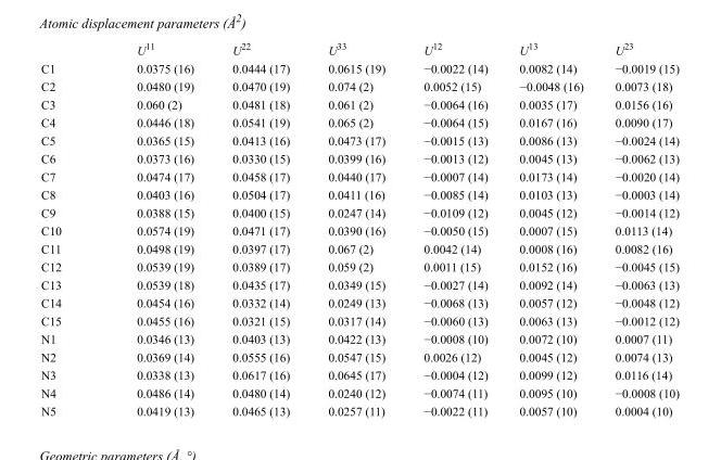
<table><thead><tr><td></td><td>U<sup>11</sup></td><td>U<sup>22</sup></td><td>U<sup>33</sup></td><td>U<sup>12</sup></td><td>U<sup>13</sup></td><td>U<sup>23</sup></td></tr></thead><tbody><tr><td>C1</td><td>0.0375 (16)</td><td>0.0444 (17)</td><td>0.0615 (19)</td><td>−0.0022 (14)</td><td>0.0082 (14)</td><td>−0.0019 (15)</td></tr><tr><td>C2</td><td>0.0480 (19)</td><td>0.0470 (19)</td><td>0.074 (2)</td><td>0.0052 (15)</td><td>−0.0048 (16)</td><td>0.0073 (18)</td></tr><tr><td>C3</td><td>0.060 (2)</td><td>0.0481 (18)</td><td>0.061 (2)</td><td>−0.0064 (16)</td><td>0.0035 (17)</td><td>0.0156 (16)</td></tr><tr><td>C4</td><td>0.0446 (18)</td><td>0.0541 (19)</td><td>0.065 (2)</td><td>−0.0064 (15)</td><td>0.0167 (16)</td><td>0.0090 (17)</td></tr><tr><td>C5</td><td>0.0365 (15)</td><td>0.0413 (16)</td><td>0.0473 (17)</td><td>−0.0015 (13)</td><td>0.0086 (13)</td><td>−0.0024 (14)</td></tr><tr><td>C6</td><td>0.0373 (16)</td><td>0.0330 (15)</td><td>0.0399 (16)</td><td>−0.0013 (12)</td><td>0.0045 (13)</td><td>−0.0062 (13)</td></tr><tr><td>C7</td><td>0.0474 (17)</td><td>0.0458 (17)</td><td>0.0440 (17)</td><td>−0.0007 (14)</td><td>0.0173 (14)</td><td>−0.0020 (14)</td></tr><tr><td>C8</td><td>0.0403 (16)</td><td>0.0504 (17)</td><td>0.0411 (16)</td><td>−0.0085 (14)</td><td>0.0103 (13)</td><td>−0.0003 (14)</td></tr><tr><td>C9</td><td>0.0388 (15)</td><td>0.0400 (15)</td><td>0.0247 (14)</td><td>−0.0109 (12)</td><td>0.0045 (12)</td><td>−0.0014 (12)</td></tr><tr><td>C10</td><td>0.0574 (19)</td><td>0.0471 (17)</td><td>0.0390 (16)</td><td>−0.0050 (15)</td><td>0.0007 (15)</td><td>0.0113 (14)</td></tr><tr><td>C11</td><td>0.0498 (19)</td><td>0.0397 (17)</td><td>0.067 (2)</td><td>0.0042 (14)</td><td>0.0008 (16)</td><td>0.0082 (16)</td></tr><tr><td>C12</td><td>0.0539 (19)</td><td>0.0389 (17)</td><td>0.059 (2)</td><td>0.0011 (15)</td><td>0.0152 (16)</td><td>−0.0045 (15)</td></tr><tr><td>C13</td><td>0.0539 (18)</td><td>0.0435 (17)</td><td>0.0349 (15)</td><td>−0.0027 (14)</td><td>0.0092 (14)</td><td>−0.0063 (13)</td></tr><tr><td>C14</td><td>0.0454 (16)</td><td>0.0332 (14)</td><td>0.0249 (13)</td><td>−0.0068 (13)</td><td>0.0057 (12)</td><td>−0.0048 (12)</td></tr><tr><td>C15</td><td>0.0455 (16)</td><td>0.0321 (15)</td><td>0.0317 (14)</td><td>−0.0060 (13)</td><td>0.0063 (13)</td><td>−0.0012 (12)</td></tr><tr><td>N1</td><td>0.0346 (13)</td><td>0.0403 (13)</td><td>0.0422 (13)</td><td>−0.0008 (10)</td><td>0.0072 (10)</td><td>0.0007 (11)</td></tr><tr><td>N2</td><td>0.0369 (14)</td><td>0.0555 (16)</td><td>0.0547 (15)</td><td>0.0026 (12)</td><td>0.0045 (12)</td><td>0.0074 (13)</td></tr><tr><td>N3</td><td>0.0338 (13)</td><td>0.0617 (16)</td><td>0.0645 (17)</td><td>−0.0004 (12)</td><td>0.0099 (12)</td><td>0.0116 (14)</td></tr><tr><td>N4</td><td>0.0486 (14)</td><td>0.0480 (14)</td><td>0.0240 (12)</td><td>−0.0074 (11)</td><td>0.0095 (10)</td><td>−0.0008 (10)</td></tr><tr><td>N5</td><td>0.0419 (13)</td><td>0.0465 (13)</td><td>0.0257 (11)</td><td>−0.0022 (11)</td><td>0.0057 (10)</td><td>0.0004 (10)</td></tr></tbody></table>